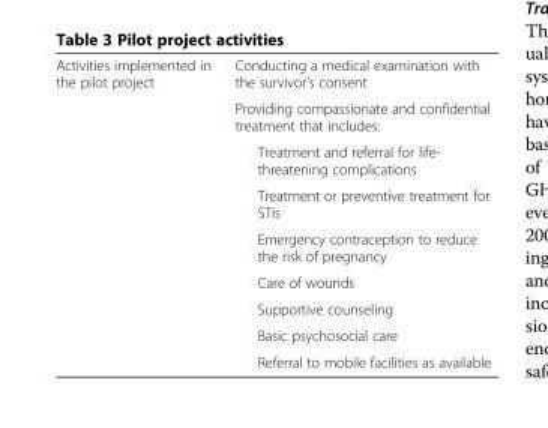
<table><tbody><tr><td rowspan="9">Activities implemented in the pilot project</td><td>Conducting a medical examination with the survivor’s consent</td></tr><tr><td>Providing compassionate and confidential treatment that includes:</td></tr><tr><td>Treatment and referral for life- threatening complications</td></tr><tr><td>Treatment or preventive treatment for STIs</td></tr><tr><td>Emergency contraception to reduce the risk of pregnancy</td></tr><tr><td>Care of wounds</td></tr><tr><td>Supportive counseling</td></tr><tr><td>Basic psychosocial care</td></tr><tr><td>Referral to mobile facilities as available</td></tr></tbody></table>